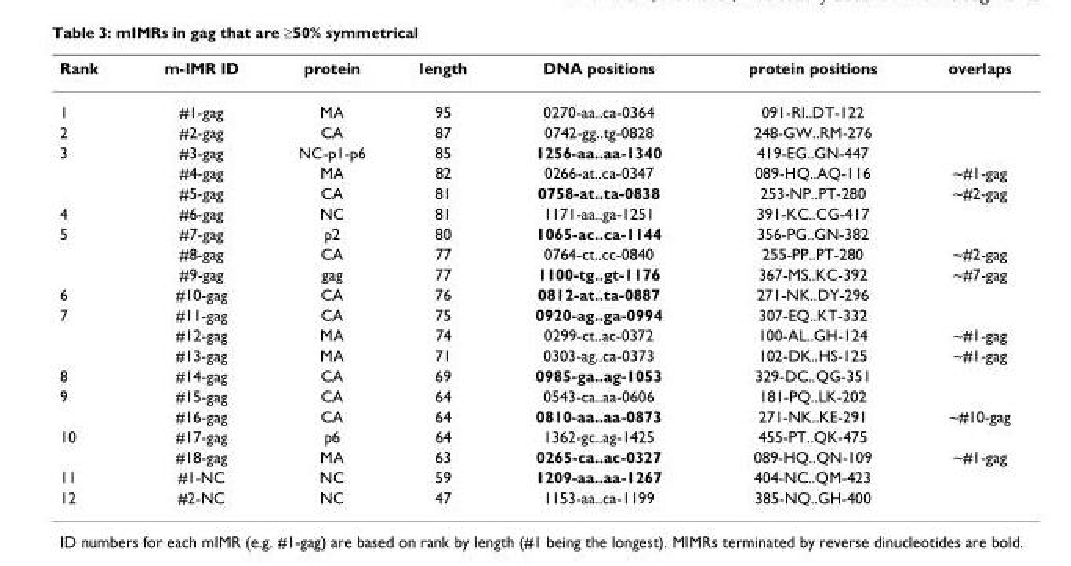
<table><thead><tr><td>Rank</td><td>m-IMR ID</td><td>protein</td><td>length</td><td>DNA positions</td><td>protein positions</td><td>overlaps</td></tr></thead><tbody><tr><td>1</td><td>#1-gag</td><td>MA</td><td>95</td><td>0270-aa..ca-0364</td><td>091-RI..DT-122</td><td></td></tr><tr><td>2</td><td>#2-gag</td><td>CA</td><td>87</td><td>0742-gg..tg-0828</td><td>248-GW..RM-276</td><td></td></tr><tr><td rowspan="3">3</td><td>#3-gag</td><td>NC-p1-p6</td><td>85</td><td>1256-aa..aa-1340</td><td>419-EG..GN-447</td><td></td></tr><tr><td>#4-gag</td><td>MA</td><td>82</td><td>0266-at..ca-0347</td><td>089-HQ..AQ-116</td><td>~#1-gag</td></tr><tr><td>#5-gag</td><td>CA</td><td>81</td><td>0758-at..ta-0838</td><td>253-NP..PT-280</td><td>~#2-gag</td></tr><tr><td>4</td><td>#6-gag</td><td>NC</td><td>81</td><td>1171-aa..ga-1251</td><td>391-KC..CG-417</td><td></td></tr><tr><td rowspan="3">5</td><td>#7-gag</td><td>p2</td><td>80</td><td>1065-ac..ca-1144</td><td>356-PG..GN-382</td><td></td></tr><tr><td>#8-gag</td><td>CA</td><td>77</td><td>0764-ct..cc-0840</td><td>255-PP..PT-280</td><td>~#2-gag</td></tr><tr><td>#9-gag</td><td>gag</td><td>77</td><td>1100-tg..gt-1176</td><td>367-MS..KC-392</td><td>~#7-gag</td></tr><tr><td>6</td><td>#10-gag</td><td>CA</td><td>76</td><td>0812-at..ta-0887</td><td>271-NK..DY-296</td><td></td></tr><tr><td rowspan="3">7</td><td>#11-gag</td><td>CA</td><td>75</td><td>0920-ag..ga-0994</td><td>307-EQ..KT-332</td><td></td></tr><tr><td>#12-gag</td><td>MA</td><td>74</td><td>0299-ct..ac-0372</td><td>100-AL..GH-124</td><td>~#1-gag</td></tr><tr><td>#13-gag</td><td>MA</td><td>71</td><td>0303-ag..ca-0373</td><td>102-DK..HS-125</td><td>~#1-gag</td></tr><tr><td>8</td><td>#14-gag</td><td>CA</td><td>69</td><td>0985-ga..ag-1053</td><td>329-DC..QG-351</td><td></td></tr><tr><td rowspan="2">9</td><td>#15-gag</td><td>CA</td><td>64</td><td>0543-ca..aa-0606</td><td>181-PQ..LK-202</td><td></td></tr><tr><td>#16-gag</td><td>CA</td><td>64</td><td>0810-aa..aa-0873</td><td>271-NK..KE-291</td><td>~#10-gag</td></tr><tr><td rowspan="2">10</td><td>#17-gag</td><td>p6</td><td>64</td><td>1362-gc..ag-1425</td><td>455-PT..QK-475</td><td></td></tr><tr><td>#18-gag</td><td>MA</td><td>63</td><td>0265-ca..ac-0327</td><td>089-HQ..QN-109</td><td>~#1-gag</td></tr><tr><td>11</td><td>#1-NC</td><td>NC</td><td>59</td><td>1209-aa..aa-1267</td><td>404-NC..QM-423</td><td></td></tr><tr><td>12</td><td>#2-NC</td><td>NC</td><td>47</td><td>1153-aa..ca-1199</td><td>385-NQ..GH-400</td><td></td></tr></tbody></table>